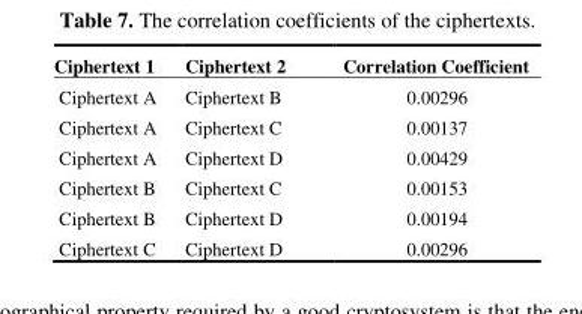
<table><thead><tr><td>Ciphertext 1</td><td>Ciphertext 2</td><td>Correlation Coefficient</td></tr></thead><tbody><tr><td>Ciphertext A</td><td>Ciphertext B</td><td>0.00296</td></tr><tr><td>Ciphertext A</td><td>Ciphertext C</td><td>0.00137</td></tr><tr><td>Ciphertext A</td><td>Ciphertext D</td><td>0.00429</td></tr><tr><td>Ciphertext B</td><td>Ciphertext C</td><td>0.00153</td></tr><tr><td>Ciphertext B</td><td>Ciphertext D</td><td>0.00194</td></tr><tr><td>Ciphertext C</td><td>Ciphertext D</td><td>0.00296</td></tr></tbody></table>